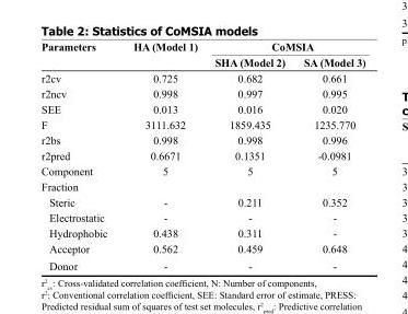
<table><thead><tr><td rowspan="2">Parameters</td><td rowspan="2">HA (Model 1)</td><td colspan="2">CoMSIA</td></tr><tr><td>SHA (Model 2)</td><td>SA (Model 3)</td></tr></thead><tbody><tr><td>r2cv</td><td>0.725</td><td>0.682</td><td>0.661</td></tr><tr><td>r2ncv</td><td>0.998</td><td>0.997</td><td>0.995</td></tr><tr><td>SEE</td><td>0.013</td><td>0.016</td><td>0.020</td></tr><tr><td>F</td><td>3111.632</td><td>1859.435</td><td>1235.770</td></tr><tr><td>r2bs</td><td>0.998</td><td>0.998</td><td>0.996</td></tr><tr><td>r2pred</td><td>0.6671</td><td>0.1351</td><td>-0.0981</td></tr><tr><td>Component</td><td>5</td><td>5</td><td>5</td></tr><tr><td colspan="4">Fraction</td></tr><tr><td>Steric</td><td>-</td><td>0.211</td><td>0.352</td></tr><tr><td>Electrostatic</td><td>-</td><td>-</td><td>-</td></tr><tr><td>Hydrophobic</td><td>0.438</td><td>0.311</td><td>-</td></tr><tr><td>Acceptor</td><td>0.562</td><td>0.459</td><td>0.648</td></tr><tr><td>Donor</td><td>-</td><td>-</td><td>-</td></tr></tbody></table>